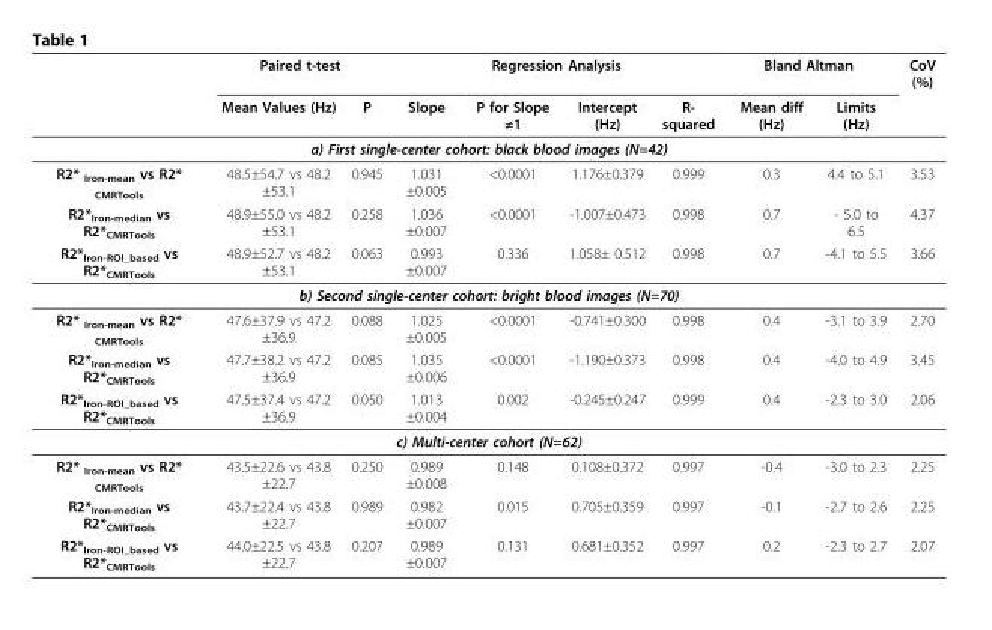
<table><thead><tr><td rowspan="2"></td><td colspan="2">Paired t-test</td><td colspan="4">Regression Analysis</td><td colspan="2">Bland Altman</td><td rowspan="2">CoV (%)</td></tr><tr><td>Mean Values (Hz)</td><td>P</td><td>Slope</td><td>P for Slope ≠1</td><td>Intercept (Hz)</td><td>R- squared</td><td>Mean diff (Hz)</td><td>Limits (Hz)</td></tr></thead><tbody><tr><td colspan="10">a) First single-center cohort: black blood images (N=42)</td></tr><tr><td>R2* <sub>Iron-mean</sub> vs R2* <sub>CMRTools</sub></td><td>48.5±54.7 vs 48.2 ±53.1</td><td>0.945</td><td>1.031 ±0.005</td><td>&lt;0.0001</td><td>1.176±0.379</td><td>0.999</td><td>0.3</td><td>4.4 to 5.1</td><td>3.53</td></tr><tr><td>R2*<sub>Iron-median</sub> vs R2*<sub>CMRTools</sub></td><td>48.9±55.0 vs 48.2 ±53.1</td><td>0.258</td><td>1.036 ±0.007</td><td>&lt;0.0001</td><td>-1.007±0.473</td><td>0.998</td><td>0.7</td><td>- 5.0 to 6.5</td><td>4.37</td></tr><tr><td>R2*<sub>Iron-ROI_based</sub> vs R2*<sub>CMRTools</sub></td><td>48.9±52.7 vs 48.2 ±53.1</td><td>0.063</td><td>0.993 ±0.007</td><td>0.336</td><td>1.058± 0.512</td><td>0.998</td><td>0.7</td><td>-4.1 to 5.5</td><td>3.66</td></tr><tr><td colspan="10">b) Second single-center cohort: bright blood images (N=70)</td></tr><tr><td>R2* <sub>Iron-mean</sub> vs R2* <sub>CMRTools</sub></td><td>47.6±37.9 vs 47.2 ±36.9</td><td>0.088</td><td>1.025 ±0.005</td><td>&lt;0.0001</td><td>-0.741±0.300</td><td>0.998</td><td>0.4</td><td>-3.1 to 3.9</td><td>2.70</td></tr><tr><td>R2*<sub>Iron-median</sub> vs R2*<sub>CMRTools</sub></td><td>47.7±38.2 vs 47.2 ±36.9</td><td>0.085</td><td>1.035 ±0.006</td><td>&lt;0.0001</td><td>-1.190±0.373</td><td>0.998</td><td>0.4</td><td>-4.0 to 4.9</td><td>3.45</td></tr><tr><td>R2*<sub>Iron-ROI_based</sub> vs R2*<sub>CMRTools</sub></td><td>47.5±37.4 vs 47.2 ±36.9</td><td>0.050</td><td>1.013 ±0.004</td><td>0.002</td><td>-0.245±0.247</td><td>0.999</td><td>0.4</td><td>-2.3 to 3.0</td><td>2.06</td></tr><tr><td colspan="10">c) Multi-center cohort (N=62)</td></tr><tr><td>R2* <sub>Iron-mean</sub> vs R2* <sub>CMRTools</sub></td><td>43.5±22.6 vs 43.8 ±22.7</td><td>0.250</td><td>0.989 ±0.008</td><td>0.148</td><td>0.108±0.372</td><td>0.997</td><td>-0.4</td><td>-3.0 to 2.3</td><td>2.25</td></tr><tr><td>R2*<sub>Iron-median</sub> vs R2*<sub>CMRTools</sub></td><td>43.7±22.4 vs 43.8 ±22.7</td><td>0.989</td><td>0.982 ±0.007</td><td>0.015</td><td>0.705±0.359</td><td>0.997</td><td>-0.1</td><td>-2.7 to 2.6</td><td>2.25</td></tr><tr><td>R2*<sub>Iron-ROI_based</sub> vs R2*<sub>CMRTools</sub></td><td>44.0±22.5 vs 43.8 ±22.7</td><td>0.207</td><td>0.989 ±0.007</td><td>0.131</td><td>0.681±0.352</td><td>0.997</td><td>0.2</td><td>-2.3 to 2.7</td><td>2.07</td></tr></tbody></table>